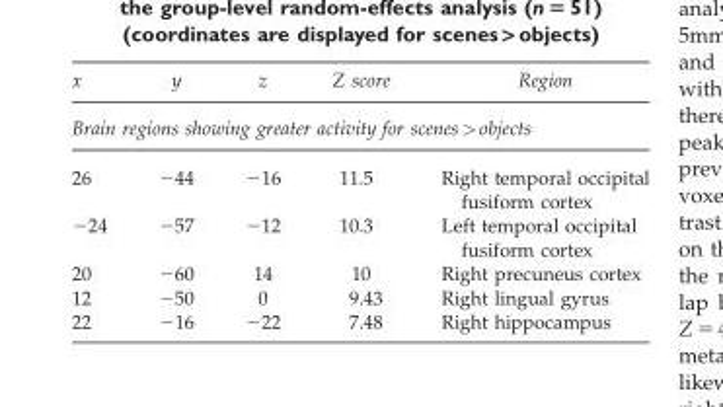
<table><thead><tr><td>x</td><td>y</td><td>z</td><td>Z score</td><td>Region</td></tr><tr><td colspan="5">Brain regions showing greater activity for scenes &gt; objects</td></tr></thead><tbody><tr><td>26</td><td>−44</td><td>−16</td><td>11.5</td><td>Right temporal occipital fusiform cortex</td></tr><tr><td>−24</td><td>−57</td><td>−12</td><td>10.3</td><td>Left temporal occipital fusiform cortex</td></tr><tr><td>20</td><td>−60</td><td>14</td><td>10</td><td>Right precuneus cortex</td></tr><tr><td>12</td><td>−50</td><td>0</td><td>9.43</td><td>Right lingual gyrus</td></tr><tr><td>22</td><td>−16</td><td>−22</td><td>7.48</td><td>Right hippocampus</td></tr></tbody></table>